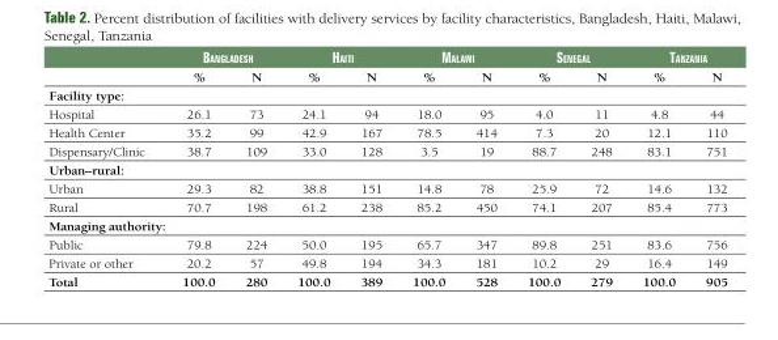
<table><thead><tr><td rowspan="2"></td><td colspan="2">bangladesh</td><td colspan="2">haiti</td><td colspan="2">malawi</td><td colspan="2">senegal</td><td colspan="2">tanzania</td></tr><tr><td>%</td><td>N</td><td>%</td><td>N</td><td>%</td><td>N</td><td>%</td><td>N</td><td>%</td><td>N</td></tr></thead><tbody><tr><td colspan="11">Facility type:</td></tr><tr><td>Hospital</td><td>26.1</td><td>73</td><td>24.1</td><td>94</td><td>18.0</td><td>95</td><td>4.0</td><td>11</td><td>4.8</td><td>44</td></tr><tr><td>Health Center</td><td>35.2</td><td>99</td><td>42.9</td><td>167</td><td>78.5</td><td>414</td><td>7.3</td><td>20</td><td>12.1</td><td>110</td></tr><tr><td>Dispensary/Clinic</td><td>38.7</td><td>109</td><td>33.0</td><td>128</td><td>3.5</td><td>19</td><td>88.7</td><td>248</td><td>83.1</td><td>751</td></tr><tr><td colspan="11">Urban–rural:</td></tr><tr><td>Urban</td><td>29.3</td><td>82</td><td>38.8</td><td>151</td><td>14.8</td><td>78</td><td>25.9</td><td>72</td><td>14.6</td><td>132</td></tr><tr><td>Rural</td><td>70.7</td><td>198</td><td>61.2</td><td>238</td><td>85.2</td><td>450</td><td>74.1</td><td>207</td><td>85.4</td><td>773</td></tr><tr><td colspan="11">Managing authority:</td></tr><tr><td>Public</td><td>79.8</td><td>224</td><td>50.0</td><td>195</td><td>65.7</td><td>347</td><td>89.8</td><td>251</td><td>83.6</td><td>756</td></tr><tr><td>Private or other</td><td>20.2</td><td>57</td><td>49.8</td><td>194</td><td>34.3</td><td>181</td><td>10.2</td><td>29</td><td>16.4</td><td>149</td></tr><tr><td>Total</td><td>100.0</td><td>280</td><td>100.0</td><td>389</td><td>100.0</td><td>528</td><td>100.0</td><td>279</td><td>100.0</td><td>905</td></tr></tbody></table>